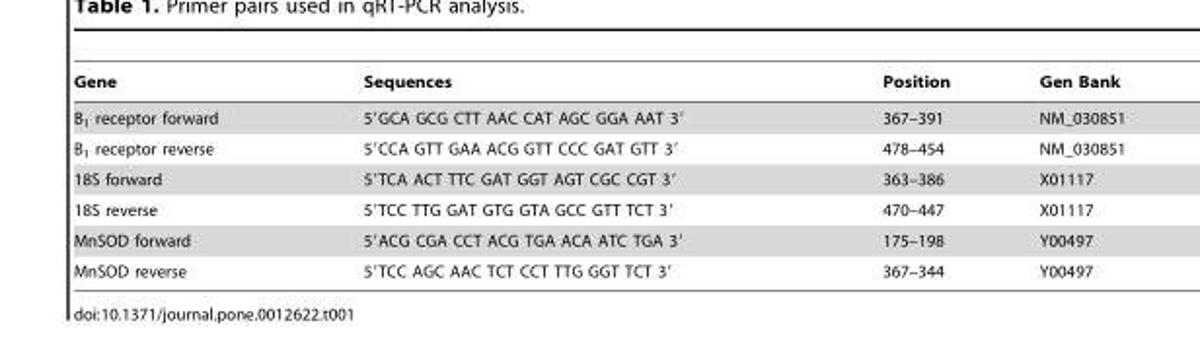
<table><thead><tr><td>Gene</td><td>Sequences</td><td>Position</td><td>Gen Bank</td></tr></thead><tbody><tr><td>B<sub>1</sub> receptor forward</td><td>5′GCA GCG CTT AAC CAT AGC GGA AAT 3′</td><td>367–391</td><td>NM_030851</td></tr><tr><td>B<sub>1</sub> receptor reverse</td><td>5′CCA GTT GAA ACG GTT CCC GAT GTT 3′</td><td>478–454</td><td>NM_030851</td></tr><tr><td>18S forward</td><td>5′TCA ACT TTC GAT GGT AGT CGC CGT 3′</td><td>363–386</td><td>X01117</td></tr><tr><td>18S reverse</td><td>5′TCC TTG GAT GTG GTA GCC GTT TCT 3′</td><td>470–447</td><td>X01117</td></tr><tr><td>MnSOD forward</td><td>5′ACG CGA CCT ACG TGA ACA ATC TGA 3′</td><td>175–198</td><td>Y00497</td></tr><tr><td>MnSOD reverse</td><td>5′TCC AGC AAC TCT CCT TTG GGT TCT 3′</td><td>367–344</td><td>Y00497</td></tr></tbody></table>